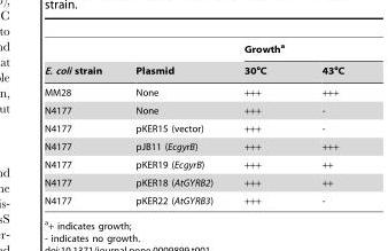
<table><thead><tr><td rowspan="2">E. coli strain</td><td rowspan="2">Plasmid</td><td colspan="2">Growth<sup>a</sup></td></tr><tr><td>30°C</td><td>43°C</td></tr></thead><tbody><tr><td>MM28</td><td>None</td><td>+++</td><td>+++</td></tr><tr><td>N4177</td><td>None</td><td>+++</td><td>-</td></tr><tr><td>N4177</td><td>pKER15 (vector)</td><td>+++</td><td>-</td></tr><tr><td>N4177</td><td>pJB11 (EcgyrB)</td><td>+++</td><td>+++</td></tr><tr><td>N4177</td><td>pKER19 (EcgyrB)</td><td>+++</td><td>++</td></tr><tr><td>N4177</td><td>pKER18 (AtGYRB2)</td><td>+++</td><td>++</td></tr><tr><td>N4177</td><td>pKER22 (AtGYRB3)</td><td>+++</td><td>-</td></tr></tbody></table>